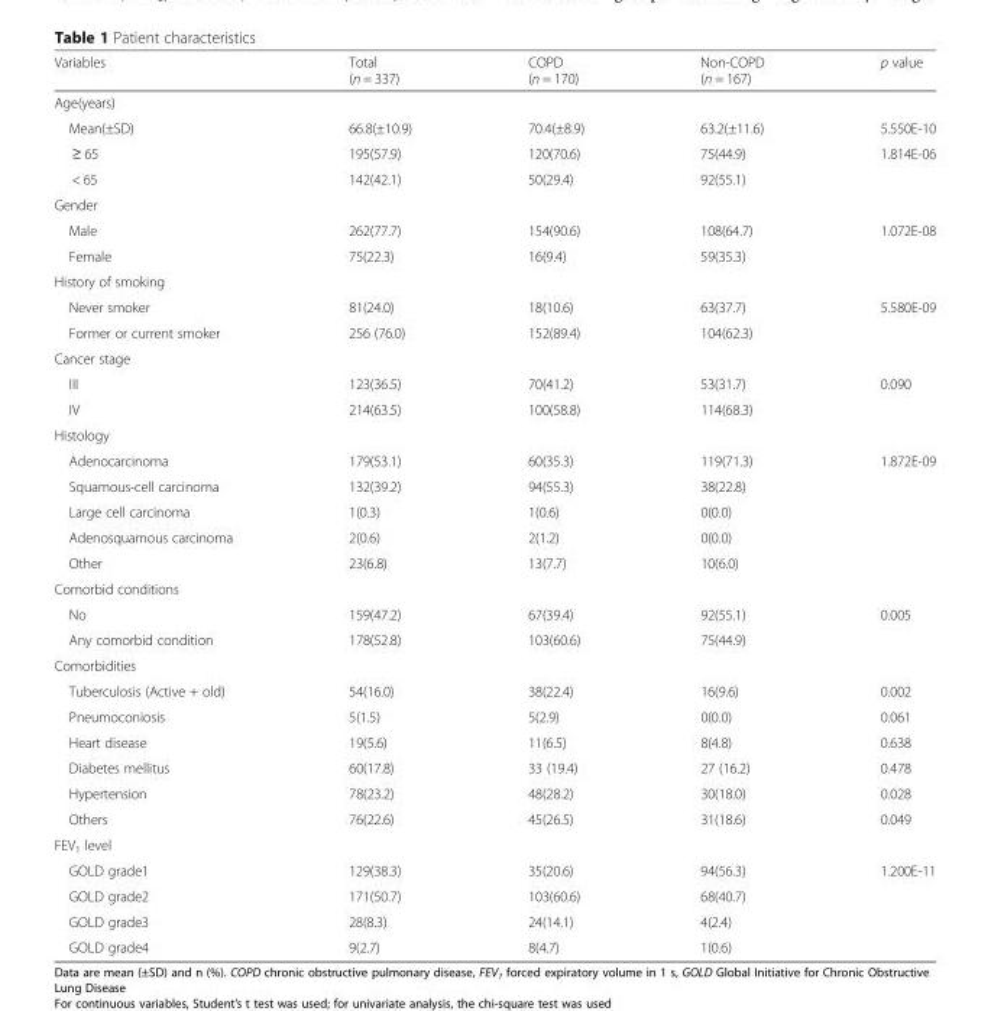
<table><thead><tr><td>Variables</td><td>Total (n = 337)</td><td>COPD (n = 170)</td><td>Non-COPD (n = 167)</td><td>p value</td></tr></thead><tbody><tr><td colspan="5">Age(years)</td></tr><tr><td>Mean(±SD)</td><td>66.8(±10.9)</td><td>70.4(±8.9)</td><td>63.2(±11.6)</td><td>5.550E-10</td></tr><tr><td>≥ 65</td><td>195(57.9)</td><td>120(70.6)</td><td>75(44.9)</td><td>1.814E-06</td></tr><tr><td>&lt; 65</td><td>142(42.1)</td><td>50(29.4)</td><td>92(55.1)</td><td></td></tr><tr><td colspan="5">Gender</td></tr><tr><td>Male</td><td>262(77.7)</td><td>154(90.6)</td><td>108(64.7)</td><td>1.072E-08</td></tr><tr><td>Female</td><td>75(22.3)</td><td>16(9.4)</td><td>59(35.3)</td><td></td></tr><tr><td colspan="5">History of smoking</td></tr><tr><td>Never smoker</td><td>81(24.0)</td><td>18(10.6)</td><td>63(37.7)</td><td>5.580E-09</td></tr><tr><td>Former or current smoker</td><td>256 (76.0)</td><td>152(89.4)</td><td>104(62.3)</td><td></td></tr><tr><td colspan="5">Cancer stage</td></tr><tr><td>III</td><td>123(36.5)</td><td>70(41.2)</td><td>53(31.7)</td><td>0.090</td></tr><tr><td>IV</td><td>214(63.5)</td><td>100(58.8)</td><td>114(68.3)</td><td></td></tr><tr><td colspan="5">Histology</td></tr><tr><td>Adenocarcinoma</td><td>179(53.1)</td><td>60(35.3)</td><td>119(71.3)</td><td>1.872E-09</td></tr><tr><td>Squamous-cell carcinoma</td><td>132(39.2)</td><td>94(55.3)</td><td>38(22.8)</td><td></td></tr><tr><td>Large cell carcinoma</td><td>1(0.3)</td><td>1(0.6)</td><td>0(0.0)</td><td></td></tr><tr><td>Adenosquamous carcinoma</td><td>2(0.6)</td><td>2(1.2)</td><td>0(0.0)</td><td></td></tr><tr><td>Other</td><td>23(6.8)</td><td>13(7.7)</td><td>10(6.0)</td><td></td></tr><tr><td colspan="5">Comorbid conditions</td></tr><tr><td>No</td><td>159(47.2)</td><td>67(39.4)</td><td>92(55.1)</td><td>0.005</td></tr><tr><td>Any comorbid condition</td><td>178(52.8)</td><td>103(60.6)</td><td>75(44.9)</td><td></td></tr><tr><td colspan="5">Comorbidities</td></tr><tr><td>Tuberculosis (Active + old)</td><td>54(16.0)</td><td>38(22.4)</td><td>16(9.6)</td><td>0.002</td></tr><tr><td>Pneumoconiosis</td><td>5(1.5)</td><td>5(2.9)</td><td>0(0.0)</td><td>0.061</td></tr><tr><td>Heart disease</td><td>19(5.6)</td><td>11(6.5)</td><td>8(4.8)</td><td>0.638</td></tr><tr><td>Diabetes mellitus</td><td>60(17.8)</td><td>33 (19.4)</td><td>27 (16.2)</td><td>0.478</td></tr><tr><td>Hypertension</td><td>78(23.2)</td><td>48(28.2)</td><td>30(18.0)</td><td>0.028</td></tr><tr><td>Others</td><td>76(22.6)</td><td>45(26.5)</td><td>31(18.6)</td><td>0.049</td></tr><tr><td colspan="5">FEV<sub>1</sub> level</td></tr><tr><td>GOLD grade1</td><td>129(38.3)</td><td>35(20.6)</td><td>94(56.3)</td><td>1.200E-11</td></tr><tr><td>GOLD grade2</td><td>171(50.7)</td><td>103(60.6)</td><td>68(40.7)</td><td></td></tr><tr><td>GOLD grade3</td><td>28(8.3)</td><td>24(14.1)</td><td>4(2.4)</td><td></td></tr><tr><td>GOLD grade4</td><td>9(2.7)</td><td>8(4.7)</td><td>1(0.6)</td><td></td></tr></tbody></table>